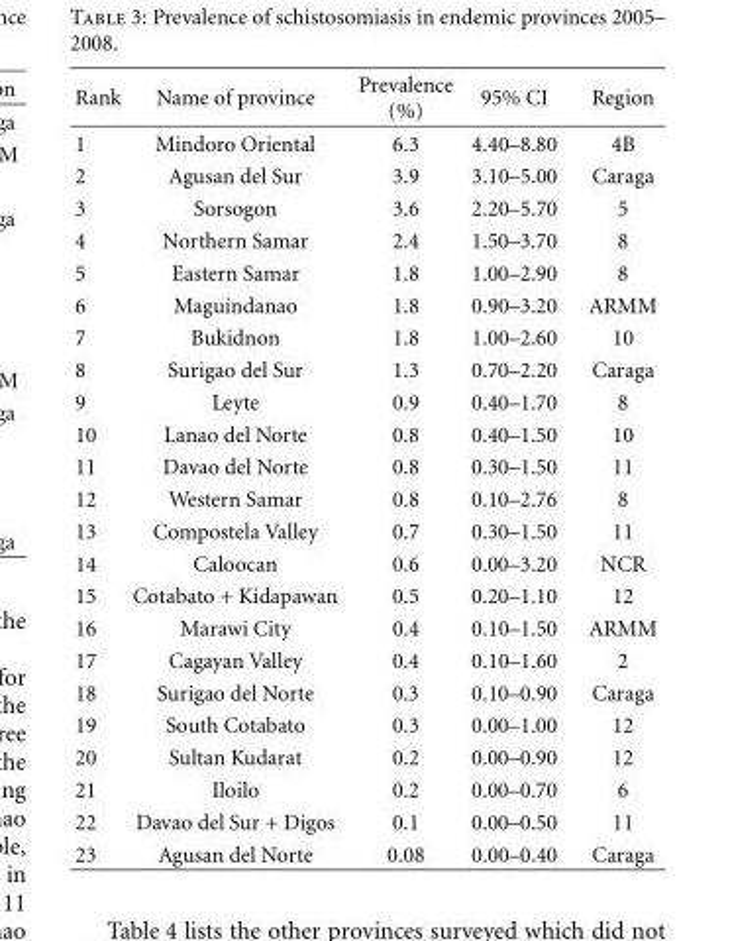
<table><thead><tr><td>Rank</td><td>Name of province</td><td>Prevalence (%)</td><td>95% CI</td><td>Region</td></tr></thead><tbody><tr><td>1</td><td>Mindoro Oriental</td><td>6.3</td><td>4.40–8.80</td><td>4B</td></tr><tr><td>2</td><td>Agusan del Sur</td><td>3.9</td><td>3.10–5.00</td><td>Caraga</td></tr><tr><td>3</td><td>Sorsogon</td><td>3.6</td><td>2.20–5.70</td><td>5</td></tr><tr><td>4</td><td>Northern Samar</td><td>2.4</td><td>1.50–3.70</td><td>8</td></tr><tr><td>5</td><td>Eastern Samar</td><td>1.8</td><td>1.00–2.90</td><td>8</td></tr><tr><td>6</td><td>Maguindanao</td><td>1.8</td><td>0.90–3.20</td><td>ARMM</td></tr><tr><td>7</td><td>Bukidnon</td><td>1.8</td><td>1.00–2.60</td><td>10</td></tr><tr><td>8</td><td>Surigao del Sur</td><td>1.3</td><td>0.70–2.20</td><td>Caraga</td></tr><tr><td>9</td><td>Leyte</td><td>0.9</td><td>0.40–1.70</td><td>8</td></tr><tr><td>10</td><td>Lanao del Norte</td><td>0.8</td><td>0.40–1.50</td><td>10</td></tr><tr><td>11</td><td>Davao del Norte</td><td>0.8</td><td>0.30–1.50</td><td>11</td></tr><tr><td>12</td><td>Western Samar</td><td>0.8</td><td>0.10–2.76</td><td>8</td></tr><tr><td>13</td><td>Compostela Valley</td><td>0.7</td><td>0.30–1.50</td><td>11</td></tr><tr><td>14</td><td>Caloocan</td><td>0.6</td><td>0.00–3.20</td><td>NCR</td></tr><tr><td>15</td><td>Cotabato + Kidapawan</td><td>0.5</td><td>0.20–1.10</td><td>12</td></tr><tr><td>16</td><td>Marawi City</td><td>0.4</td><td>0.10–1.50</td><td>ARMM</td></tr><tr><td>17</td><td>Cagayan Valley</td><td>0.4</td><td>0.10–1.60</td><td>2</td></tr><tr><td>18</td><td>Surigao del Norte</td><td>0.3</td><td>0.10–0.90</td><td>Caraga</td></tr><tr><td>19</td><td>South Cotabato</td><td>0.3</td><td>0.00–1.00</td><td>12</td></tr><tr><td>20</td><td>Sultan Kudarat</td><td>0.2</td><td>0.00–0.90</td><td>12</td></tr><tr><td>21</td><td>Iloilo</td><td>0.2</td><td>0.00–0.70</td><td>6</td></tr><tr><td>22</td><td>Davao del Sur + Digos</td><td>0.1</td><td>0.00–0.50</td><td>11</td></tr><tr><td>23</td><td>Agusan del Norte</td><td>0.08</td><td>0.00–0.40</td><td>Caraga</td></tr></tbody></table>